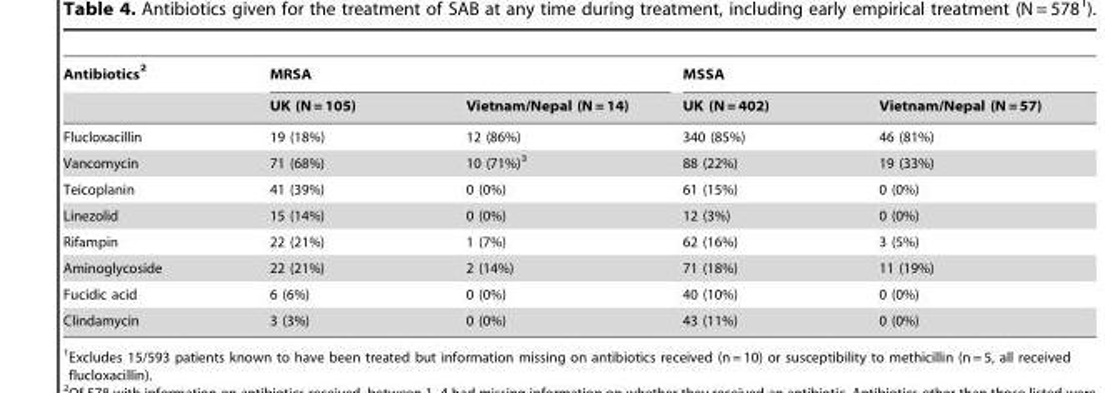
<table><thead><tr><td rowspan="2">Antibiotics <sup>2</sup></td><td colspan="2">MRSA</td><td colspan="2">MSSA</td></tr><tr><td>UK (N = 105)</td><td>Vietnam/Nepal (N = 14)</td><td>UK (N = 402)</td><td>Vietnam/Nepal (N = 57)</td></tr></thead><tbody><tr><td>Flucloxacillin</td><td>19 (18%)</td><td>12 (86%)</td><td>340 (85%)</td><td>46 (81%)</td></tr><tr><td>Vancomycin</td><td>71 (68%)</td><td>10 (71%)<sup>3</sup></td><td>88 (22%)</td><td>19 (33%)</td></tr><tr><td>Teicoplanin</td><td>41 (39%)</td><td>0 (0%)</td><td>61 (15%)</td><td>0 (0%)</td></tr><tr><td>Linezolid</td><td>15 (14%)</td><td>0 (0%)</td><td>12 (3%)</td><td>0 (0%)</td></tr><tr><td>Rifampin</td><td>22 (21%)</td><td>1 (7%)</td><td>62 (16%)</td><td>3 (5%)</td></tr><tr><td>Aminoglycoside</td><td>22 (21%)</td><td>2 (14%)</td><td>71 (18%)</td><td>11 (19%)</td></tr><tr><td>Fucidic acid</td><td>6 (6%)</td><td>0 (0%)</td><td>40 (10%)</td><td>0 (0%)</td></tr><tr><td>Clindamycin</td><td>3 (3%)</td><td>0 (0%)</td><td>43 (11%)</td><td>0 (0%)</td></tr></tbody></table>